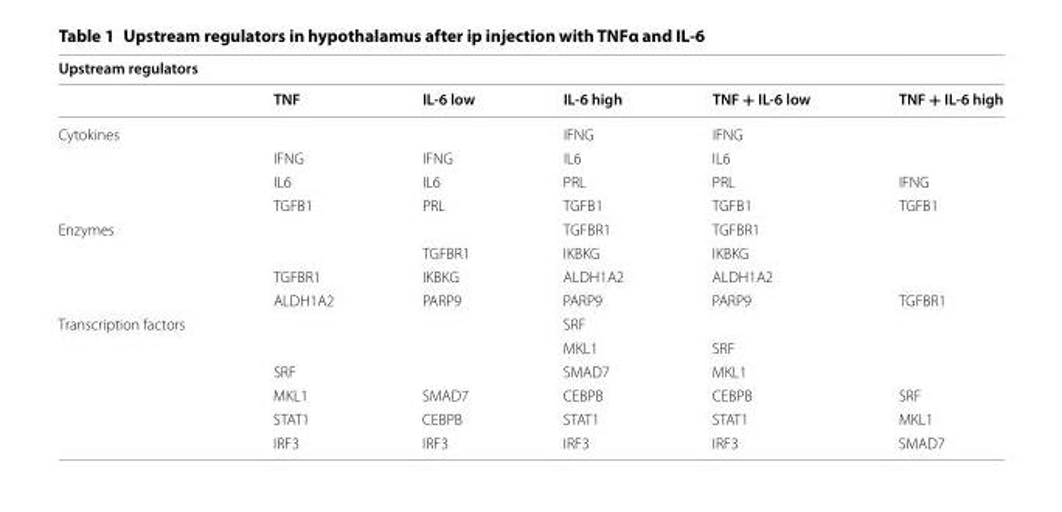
<table><thead><tr><td colspan="6">Upstream regulators</td></tr><tr><td></td><td>TNF</td><td>IL‑6 low</td><td>IL‑6 high</td><td>TNF + IL‑6 low</td><td>TNF + IL‑6 high</td></tr></thead><tbody><tr><td rowspan="4">Cytokines</td><td></td><td></td><td>IFNG</td><td>IFNG</td><td></td></tr><tr><td>IFNG</td><td>IFNG</td><td>IL6</td><td>IL6</td><td></td></tr><tr><td>IL6</td><td>IL6</td><td>PRL</td><td>PRL</td><td>IFNG</td></tr><tr><td>TGFB1</td><td>PRL</td><td>TGFB1</td><td>TGFB1</td><td>TGFB1</td></tr><tr><td rowspan="4">Enzymes</td><td></td><td></td><td>TGFBR1</td><td>TGFBR1</td><td></td></tr><tr><td></td><td>TGFBR1</td><td>IKBKG</td><td>IKBKG</td><td></td></tr><tr><td>TGFBR1</td><td>IKBKG</td><td>ALDH1A2</td><td>ALDH1A2</td><td></td></tr><tr><td>ALDH1A2</td><td>PARP9</td><td>PARP9</td><td>PARP9</td><td>TGFBR1</td></tr><tr><td rowspan="6">Transcription factors</td><td></td><td></td><td>SRF</td><td></td><td></td></tr><tr><td></td><td></td><td>MKL1</td><td>SRF</td><td></td></tr><tr><td>SRF</td><td></td><td>SMAD7</td><td>MKL1</td><td></td></tr><tr><td>MKL1</td><td>SMAD7</td><td>CEBPB</td><td>CEBPB</td><td>SRF</td></tr><tr><td>STAT1</td><td>CEBPB</td><td>STAT1</td><td>STAT1</td><td>MKL1</td></tr><tr><td>IRF3</td><td>IRF3</td><td>IRF3</td><td>IRF3</td><td>SMAD7</td></tr></tbody></table>